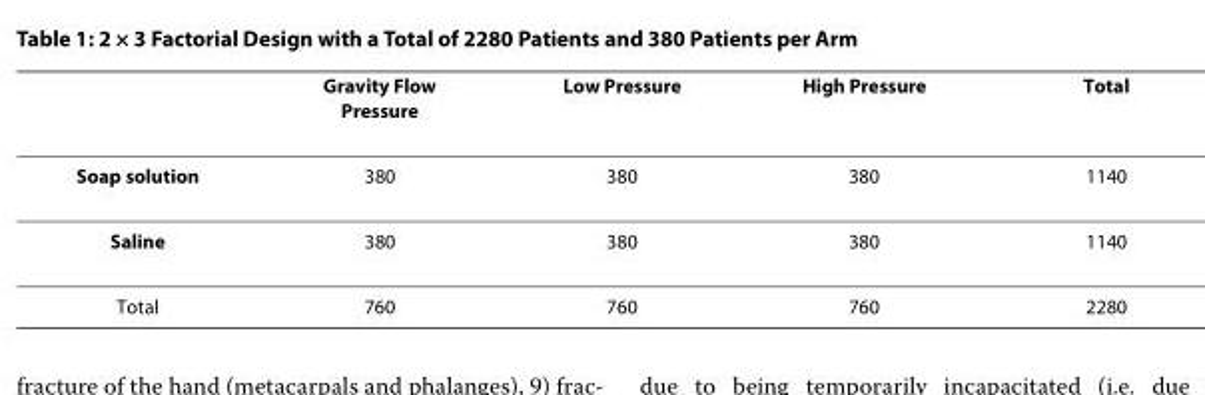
<table><thead><tr><td></td><td>Gravity Flow Pressure</td><td>Low Pressure</td><td>High Pressure</td><td>Total</td></tr></thead><tbody><tr><td>Soap solution</td><td>380</td><td>380</td><td>380</td><td>1140</td></tr><tr><td>Saline</td><td>380</td><td>380</td><td>380</td><td>1140</td></tr><tr><td>Total</td><td>760</td><td>760</td><td>760</td><td>2280</td></tr></tbody></table>